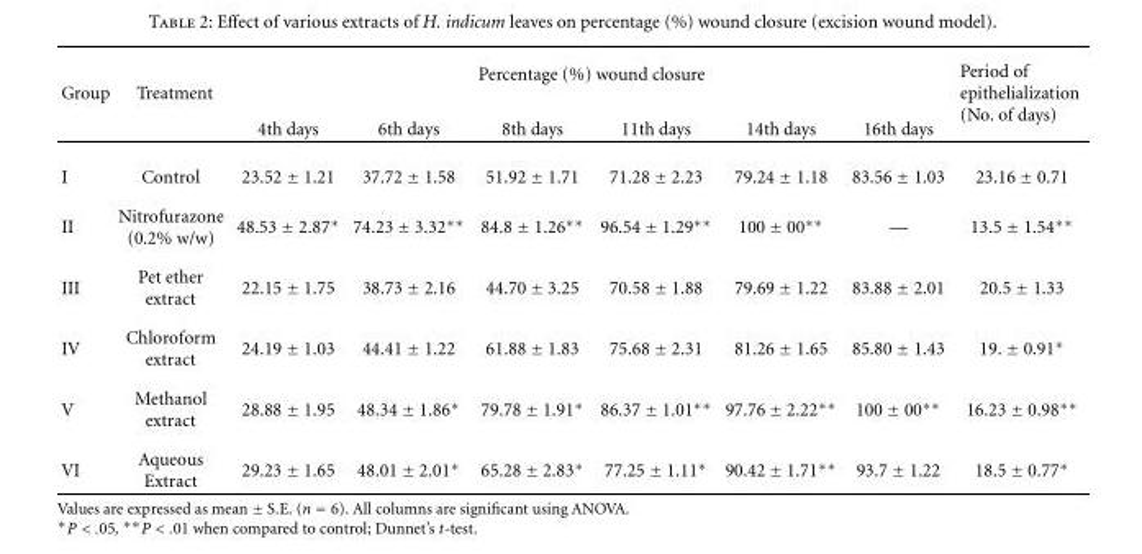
<table><thead><tr><td rowspan="2">Group</td><td rowspan="2">Treatment</td><td colspan="6">Percentage (%) wound closure</td><td rowspan="2">Period of epithelialization (No. of days)</td></tr><tr><td>4th days</td><td>6th days</td><td>8th days</td><td>11th days</td><td>14th days</td><td>16th days</td></tr></thead><tbody><tr><td>I</td><td>Control</td><td>23.52 ± 1.21</td><td>37.72 ± 1.58</td><td>51.92 ± 1.71</td><td>71.28 ± 2.23</td><td>79.24 ± 1.18</td><td>83.56 ± 1.03</td><td>23.16 ± 0.71</td></tr><tr><td>II</td><td>Nitrofurazone (0.2% w/w)</td><td>48.53 ± 2.87∗</td><td>74.23 ± 3.32∗∗</td><td>84.8 ± 1.26∗∗</td><td>96.54 ± 1.29∗∗</td><td>100 ± 00∗∗</td><td>—</td><td>13.5 ± 1.54∗∗</td></tr><tr><td>III</td><td>Pet ether extract</td><td>22.15 ± 1.75</td><td>38.73 ± 2.16</td><td>44.70 ± 3.25</td><td>70.58 ± 1.88</td><td>79.69 ± 1.22</td><td>83.88 ± 2.01</td><td>20.5 ± 1.33</td></tr><tr><td>IV</td><td>Chloroform extract</td><td>24.19 ± 1.03</td><td>44.41 ± 1.22</td><td>61.88 ± 1.83</td><td>75.68 ± 2.31</td><td>81.26 ± 1.65</td><td>85.80 ± 1.43</td><td>19. ± 0.91∗</td></tr><tr><td>V</td><td>Methanol extract</td><td>28.88 ± 1.95</td><td>48.34 ± 1.86∗</td><td>79.78 ± 1.91∗</td><td>86.37 ± 1.01∗∗</td><td>97.76 ± 2.22∗∗</td><td>100 ± 00∗∗</td><td>16.23 ± 0.98∗∗</td></tr><tr><td>VI</td><td>Aqueous Extract</td><td>29.23 ± 1.65</td><td>48.01 ± 2.01∗</td><td>65.28 ± 2.83∗</td><td>77.25 ± 1.11∗</td><td>90.42 ± 1.71∗∗</td><td>93.7 ± 1.22</td><td>18.5 ± 0.77∗</td></tr></tbody></table>